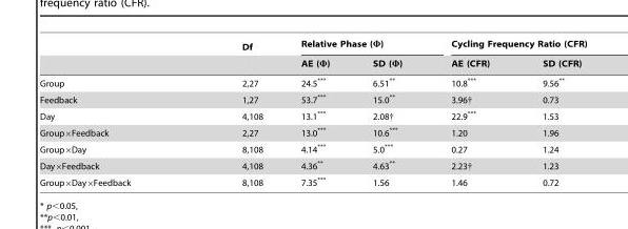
<table><thead><tr><td rowspan="2"></td><td rowspan="2">Df</td><td colspan="2">Relative Phase (Φ)</td><td colspan="2">Cycling Frequency Ratio (CFR)</td></tr><tr><td>AE (Φ)</td><td>SD (Φ)</td><td>AE (CFR)</td><td>SD (CFR)</td></tr></thead><tbody><tr><td>Group</td><td>2,27</td><td>24.5***</td><td>6.51**</td><td>10.8***</td><td>9.56**</td></tr><tr><td>Feedback</td><td>1,27</td><td>53.7***</td><td>15.0**</td><td>3.96†</td><td>0.73</td></tr><tr><td>Day</td><td>4,108</td><td>13.1***</td><td>2.08†</td><td>22.9***</td><td>1.53</td></tr><tr><td>Group×Feedback</td><td>2,27</td><td>13.0***</td><td>10.6***</td><td>1.20</td><td>1.96</td></tr><tr><td>Group×Day</td><td>8,108</td><td>4.14***</td><td>5.0***</td><td>0.27</td><td>1.24</td></tr><tr><td>Day×Feedback</td><td>4,108</td><td>4.36**</td><td>4.63**</td><td>2.23†</td><td>1.23</td></tr><tr><td>Group×Day×Feedback</td><td>8,108</td><td>7.35***</td><td>1.56</td><td>1.46</td><td>0.72</td></tr></tbody></table>